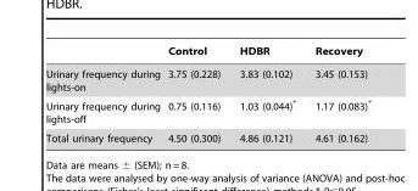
<table><thead><tr><td></td><td>Control</td><td>HDBR</td><td>Recovery</td></tr></thead><tbody><tr><td>Urinary frequency during lights-on</td><td>3.75 (0.228)</td><td>3.83 (0.102)</td><td>3.45 (0.153)</td></tr><tr><td>Urinary frequency during lights-off</td><td>0.75 (0.116)</td><td>1.03 (0.044)*</td><td>1.17 (0.083)*</td></tr><tr><td>Total urinary frequency</td><td>4.50 (0.300)</td><td>4.86 (0.121)</td><td>4.61 (0.162)</td></tr></tbody></table>